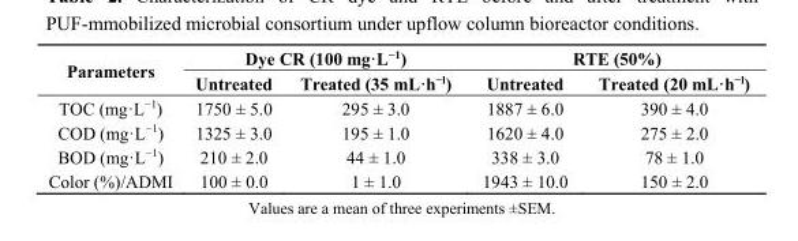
<table><thead><tr><td rowspan="2">Parameters</td><td colspan="2">Dye CR (100 mg·L<sup>−1</sup>)</td><td colspan="2">RTE (50%)</td></tr><tr><td>Untreated</td><td>Treated (35 mL·h<sup>−l</sup>)</td><td>Untreated</td><td>Treated (20 mL·h<sup>−l</sup>)</td></tr></thead><tbody><tr><td>TOC (mg·L<sup>−1</sup>)</td><td>1750 ± 5.0</td><td>295 ± 3.0</td><td>1887 ± 6.0</td><td>390 ± 4.0</td></tr><tr><td>COD (mg·L<sup>−1</sup>)</td><td>1325 ± 3.0</td><td>195 ± 1.0</td><td>1620 ± 4.0</td><td>275 ± 2.0</td></tr><tr><td>BOD (mg·L<sup>−1</sup>)</td><td>210 ± 2.0</td><td>44 ± 1.0</td><td>338 ± 3.0</td><td>78 ± 1.0</td></tr><tr><td>Color (%)/ADMI</td><td>100 ± 0.0</td><td>1 ± 1.0</td><td>1943 ± 10.0</td><td>150 ± 2.0</td></tr></tbody></table>